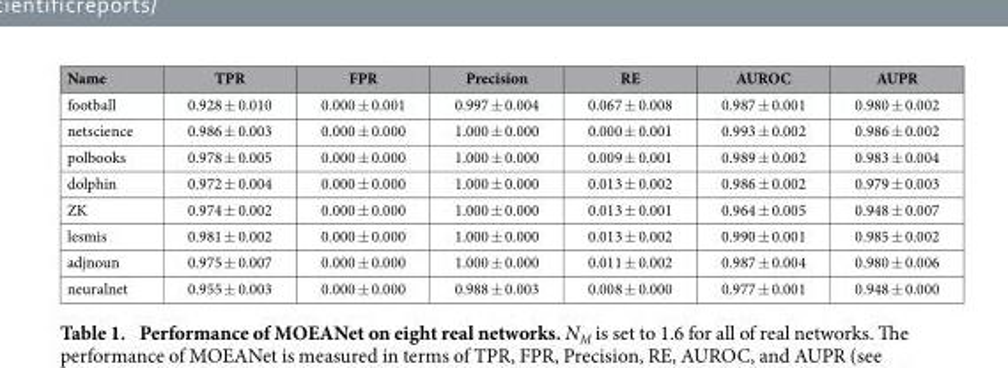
<table><thead><tr><td>Name</td><td>TPR</td><td>FPR</td><td>Precision</td><td>RE</td><td>AUROC</td><td>AUPR</td></tr></thead><tbody><tr><td>football</td><td>0.928 ± 0.010</td><td>0.000 ± 0.001</td><td>0.997 ± 0.004</td><td>0.067 ± 0.008</td><td>0.987 ± 0.001</td><td>0.980 ± 0.002</td></tr><tr><td>netscience</td><td>0.986 ± 0.003</td><td>0.000 ± 0.000</td><td>1.000 ± 0.000</td><td>0.000 ± 0.001</td><td>0.993 ± 0.002</td><td>0.986 ± 0.002</td></tr><tr><td>polbooks</td><td>0.978 ± 0.005</td><td>0.000 ± 0.000</td><td>1.000 ± 0.000</td><td>0.009 ± 0.001</td><td>0.989 ± 0.002</td><td>0.983 ± 0.004</td></tr><tr><td>dolphin</td><td>0.972 ± 0.004</td><td>0.000 ± 0.000</td><td>1.000 ± 0.000</td><td>0.013 ± 0.002</td><td>0.986 ± 0.002</td><td>0.979 ± 0.003</td></tr><tr><td>ZK</td><td>0.974 ± 0.002</td><td>0.000 ± 0.000</td><td>1.000 ± 0.000</td><td>0.013 ± 0.001</td><td>0.964 ± 0.005</td><td>0.948 ± 0.007</td></tr><tr><td>lesmis</td><td>0.981 ± 0.002</td><td>0.000 ± 0.000</td><td>1.000 ± 0.000</td><td>0.013 ± 0.002</td><td>0.990 ± 0.001</td><td>0.985 ± 0.002</td></tr><tr><td>adjnoun</td><td>0.975 ± 0.007</td><td>0.000 ± 0.000</td><td>1.000 ± 0.000</td><td>0.011 ± 0.002</td><td>0.987 ± 0.004</td><td>0.980 ± 0.006</td></tr><tr><td>neuralnet</td><td>0.955 ± 0.003</td><td>0.000 ± 0.000</td><td>0.988 ± 0.003</td><td>0.008 ± 0.000</td><td>0.977 ± 0.001</td><td>0.948 ± 0.000</td></tr></tbody></table>